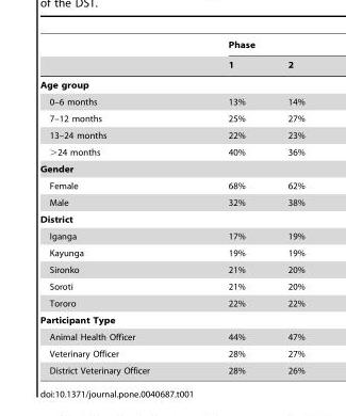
<table><thead><tr><td rowspan="2"></td><td colspan="2">Phase</td></tr><tr><td>1</td><td>2</td></tr></thead><tbody><tr><td colspan="3">Age group</td></tr><tr><td>0–6 months</td><td>13%</td><td>14%</td></tr><tr><td>7–12 months</td><td>25%</td><td>27%</td></tr><tr><td>13–24 months</td><td>22%</td><td>23%</td></tr><tr><td>&gt;24 months</td><td>40%</td><td>36%</td></tr><tr><td colspan="3">Gender</td></tr><tr><td>Female</td><td>68%</td><td>62%</td></tr><tr><td>Male</td><td>32%</td><td>38%</td></tr><tr><td colspan="3">District</td></tr><tr><td>Iganga</td><td>17%</td><td>19%</td></tr><tr><td>Kayunga</td><td>19%</td><td>19%</td></tr><tr><td>Sironko</td><td>21%</td><td>20%</td></tr><tr><td>Soroti</td><td>21%</td><td>20%</td></tr><tr><td>Tororo</td><td>22%</td><td>22%</td></tr><tr><td colspan="3">Participant Type</td></tr><tr><td>Animal Health Officer</td><td>44%</td><td>47%</td></tr><tr><td>Veterinary Officer</td><td>28%</td><td>27%</td></tr><tr><td>District Veterinary Officer</td><td>28%</td><td>26%</td></tr></tbody></table>